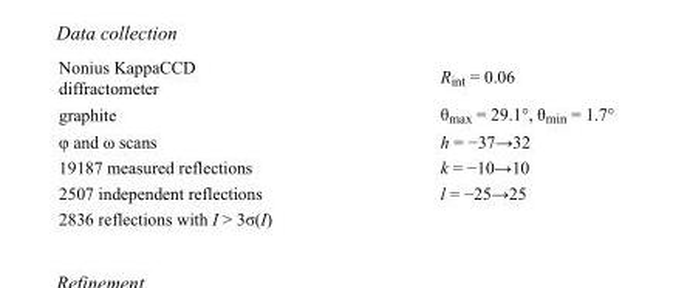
<table><tbody><tr><td>Nonius KappaCCD diffractometer</td><td>R<sub>int</sub> = 0.06</td></tr><tr><td>graphite</td><td>θ<sub>max</sub> = 29.1°, θ<sub>min</sub> = 1.7°</td></tr><tr><td>φ and ω scans</td><td>h = −37→32</td></tr><tr><td>19187 measured reflections</td><td>k = −10→10</td></tr><tr><td>2507 independent reflections</td><td>l = −25→25</td></tr><tr><td>2836 reflections with I &gt; 3σ(I)</td><td></td></tr></tbody></table>